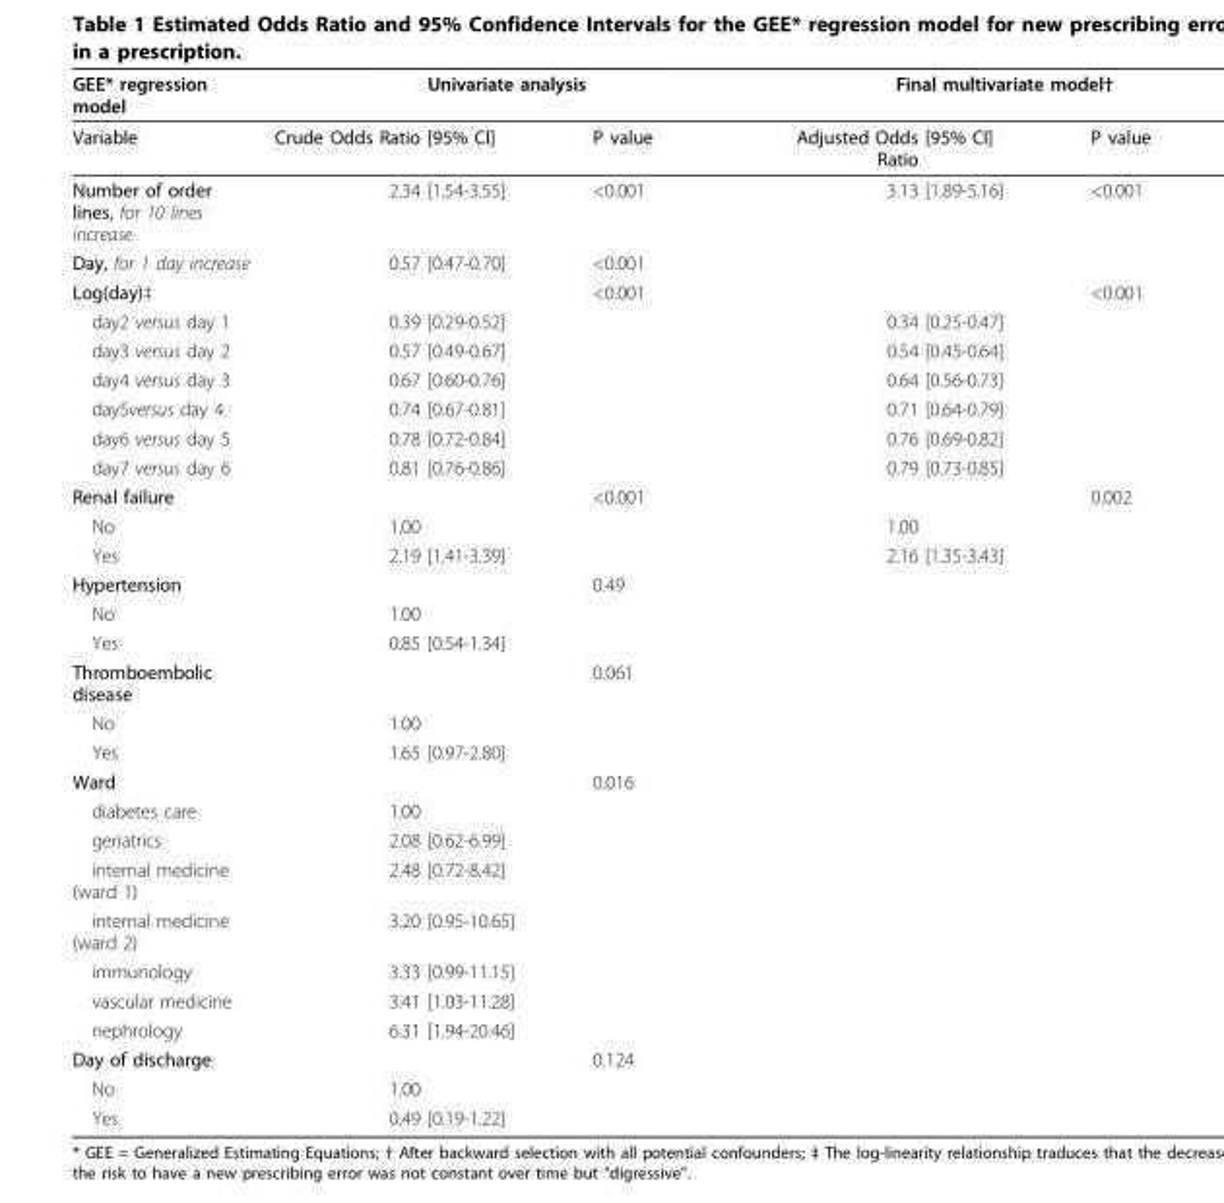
<table><thead><tr><td rowspan="2">GEE* regression model Variable</td><td colspan="3">Univariate analysis</td><td colspan="3">Final multivariate model†</td></tr><tr><td>Crude Odds Ratio</td><td>[95% CI]</td><td>P value</td><td>Adjusted Odds Ratio</td><td>[95% CI]</td><td>P value</td></tr></thead><tbody><tr><td>Number of order lines, for 10 lines increase</td><td>2.34</td><td>[1.54-3.55]</td><td>&lt;0.001</td><td>3.13</td><td>[1.89-5.16]</td><td>&lt;0.001</td></tr><tr><td>Day, for 1 day increase</td><td>0.57</td><td>[0.47-0.70]</td><td>&lt;0.001</td><td></td><td></td><td></td></tr><tr><td>Log(day)‡</td><td></td><td></td><td>&lt;0.001</td><td></td><td></td><td>&lt;0.001</td></tr><tr><td>day2 versus day 1</td><td>0.39</td><td>[0.29-0.52]</td><td></td><td>0.34</td><td>[0.25-0.47]</td><td></td></tr><tr><td>day3 versus day 2</td><td>0.57</td><td>[0.49-0.67]</td><td></td><td>0.54</td><td>[0.45-0.64]</td><td></td></tr><tr><td>day4 versus day 3</td><td>0.67</td><td>[0.60-0.76]</td><td></td><td>0.64</td><td>[0.56-0.73]</td><td></td></tr><tr><td>day5versus day 4</td><td>0.74</td><td>[0.67-0.81]</td><td></td><td>0.71</td><td>[0.64-0.79]</td><td></td></tr><tr><td>day6 versus day 5</td><td>0.78</td><td>[0.72-0.84]</td><td></td><td>0.76</td><td>[0.69-0.82]</td><td></td></tr><tr><td>day7 versus day 6</td><td>0.81</td><td>[0.76-0.86]</td><td></td><td>0.79</td><td>[0.73-0.85]</td><td></td></tr><tr><td>Renal failure</td><td></td><td></td><td>&lt;0.001</td><td></td><td></td><td>0.002</td></tr><tr><td>No</td><td>1.00</td><td></td><td></td><td>1.00</td><td></td><td></td></tr><tr><td>Yes</td><td>2.19</td><td>[1.41-3.39]</td><td></td><td>2.16</td><td>[1.35-3.43]</td><td></td></tr><tr><td>Hypertension</td><td></td><td></td><td>0.49</td><td></td><td></td><td></td></tr><tr><td>No</td><td>1.00</td><td></td><td></td><td></td><td></td><td></td></tr><tr><td>Yes</td><td>0.85</td><td>[0.54-1.34]</td><td></td><td></td><td></td><td></td></tr><tr><td>Thromboembolic disease</td><td></td><td></td><td>0.061</td><td></td><td></td><td></td></tr><tr><td>No</td><td>1.00</td><td></td><td></td><td></td><td></td><td></td></tr><tr><td>Yes</td><td>1.65</td><td>[0.97-2.80]</td><td></td><td></td><td></td><td></td></tr><tr><td>Ward</td><td></td><td></td><td>0.016</td><td></td><td></td><td></td></tr><tr><td>diabetes care</td><td>1.00</td><td></td><td></td><td></td><td></td><td></td></tr><tr><td>geriatrics</td><td>2.08</td><td>[0.62-6.99]</td><td></td><td></td><td></td><td></td></tr><tr><td>internal medicine (ward 1)</td><td>2.48</td><td>[0.72-8.42]</td><td></td><td></td><td></td><td></td></tr><tr><td>internal medicine (ward 2)</td><td>3.20</td><td>[0.95-10.65]</td><td></td><td></td><td></td><td></td></tr><tr><td>immunology</td><td>3.33</td><td>[0.99-11.15]</td><td></td><td></td><td></td><td></td></tr><tr><td>vascular medicine</td><td>3.41</td><td>[1.03-11.28]</td><td></td><td></td><td></td><td></td></tr><tr><td>nephrology</td><td>6.31</td><td>[1.94-20.46]</td><td></td><td></td><td></td><td></td></tr><tr><td>Day of discharge</td><td></td><td></td><td>0.124</td><td></td><td></td><td></td></tr><tr><td>No</td><td>1.00</td><td></td><td></td><td></td><td></td><td></td></tr><tr><td>Yes</td><td>0.49</td><td>[0.19-1.22]</td><td></td><td></td><td></td><td></td></tr></tbody></table>